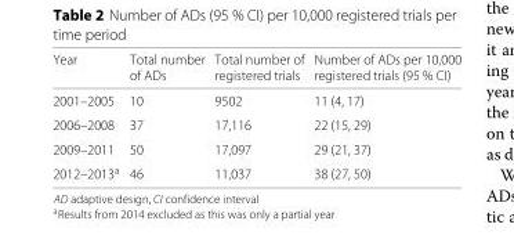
<table><thead><tr><td rowspan="2">Year</td><td rowspan="2">Total number of ADs</td><td rowspan="2">Total number of registered trials</td><td rowspan="2">Number of ADs per 10,000 registered trials (95 % CI)</td></tr><tr></tr></thead><tbody><tr><td>2001–2005</td><td>10</td><td>9502</td><td>11 (4, 17)</td></tr><tr><td>2006–2008</td><td>37</td><td>17,116</td><td>22 (15, 29)</td></tr><tr><td>2009–2011</td><td>50</td><td>17,097</td><td>29 (21, 37)</td></tr><tr><td>2012–2013<sup>a</sup></td><td>46</td><td>11,037</td><td>38 (27, 50)</td></tr></tbody></table>